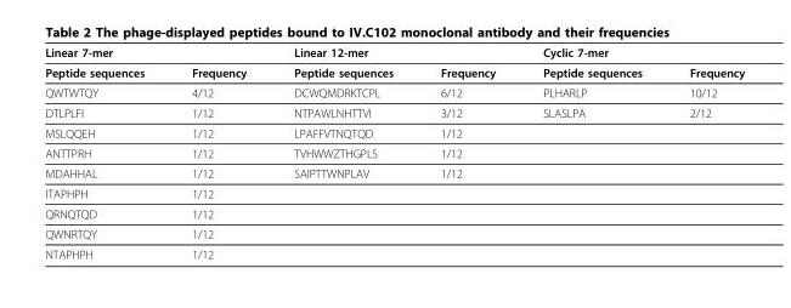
<table><thead><tr><td colspan="2">Linear 7-mer</td><td colspan="2">Linear 12-mer</td><td colspan="2">Cyclic 7-mer</td></tr><tr><td>Peptide sequences</td><td>Frequency</td><td>Peptide sequences</td><td>Frequency</td><td>Peptide sequences</td><td>Frequency</td></tr></thead><tbody><tr><td>QWTWTQY</td><td>4/12</td><td>DCWQMDRKTCPL</td><td>6/12</td><td>PLHARLP</td><td>10/12</td></tr><tr><td>DTLPLFI</td><td>1/12</td><td>NTPAWLNHTTVI</td><td>3/12</td><td>SLASLPA</td><td>2/12</td></tr><tr><td>MSLQQEH</td><td>1/12</td><td>LPAFFVTNQTQD</td><td>1/12</td><td></td><td></td></tr><tr><td>ANTTPRH</td><td>1/12</td><td>TVHWWZTHGPLS</td><td>1/12</td><td></td><td></td></tr><tr><td>MDAHHAL</td><td>1/12</td><td>SAIPTTWNPLAV</td><td>1/12</td><td></td><td></td></tr><tr><td>ITAPHPH</td><td>1/12</td><td></td><td></td><td></td><td></td></tr><tr><td>QRNQTQD</td><td>1/12</td><td></td><td></td><td></td><td></td></tr><tr><td>QWNRTQY</td><td>1/12</td><td></td><td></td><td></td><td></td></tr><tr><td>NTAPHPH</td><td>1/12</td><td></td><td></td><td></td><td></td></tr></tbody></table>